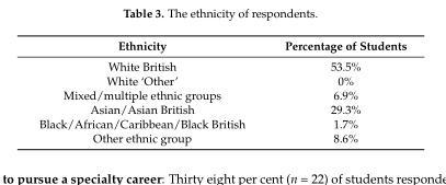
<table><thead><tr><td>Ethnicity</td><td>Percentage of Students</td></tr></thead><tbody><tr><td>White British</td><td>53.5%</td></tr><tr><td>White ‘Other’</td><td>0%</td></tr><tr><td>Mixed/multiple ethnic groups</td><td>6.9%</td></tr><tr><td>Asian/Asian British</td><td>29.3%</td></tr><tr><td>Black/African/Caribbean/Black British</td><td>1.7%</td></tr><tr><td>Other ethnic group</td><td>8.6%</td></tr></tbody></table>